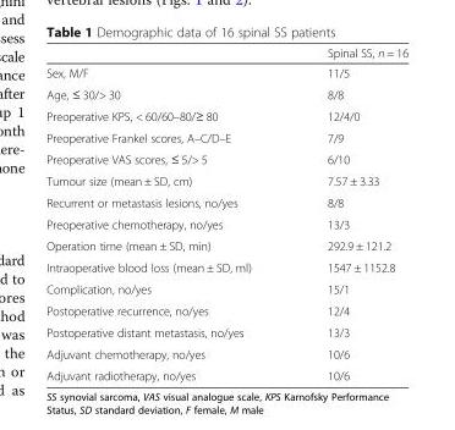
<table><thead><tr><td></td><td>Spinal SS, n = 16</td></tr></thead><tbody><tr><td>Sex, M/F</td><td>11/5</td></tr><tr><td>Age, ≤ 30/&gt; 30</td><td>8/8</td></tr><tr><td>Preoperative KPS, &lt; 60/60–80/≥ 80</td><td>12/4/0</td></tr><tr><td>Preoperative Frankel scores, A–C/D–E</td><td>7/9</td></tr><tr><td>Preoperative VAS scores, ≤ 5/&gt; 5</td><td>6/10</td></tr><tr><td>Tumour size (mean ± SD, cm)</td><td>7.57 ± 3.33</td></tr><tr><td>Recurrent or metastasis lesions, no/yes</td><td>8/8</td></tr><tr><td>Preoperative chemotherapy, no/yes</td><td>13/3</td></tr><tr><td>Operation time (mean ± SD, min)</td><td>292.9 ± 121.2</td></tr><tr><td>Intraoperative blood loss (mean ± SD, ml)</td><td>1547 ± 1152.8</td></tr><tr><td>Complication, no/yes</td><td>15/1</td></tr><tr><td>Postoperative recurrence, no/yes</td><td>12/4</td></tr><tr><td>Postoperative distant metastasis, no/yes</td><td>13/3</td></tr><tr><td>Adjuvant chemotherapy, no/yes</td><td>10/6</td></tr><tr><td>Adjuvant radiotherapy, no/yes</td><td>10/6</td></tr></tbody></table>